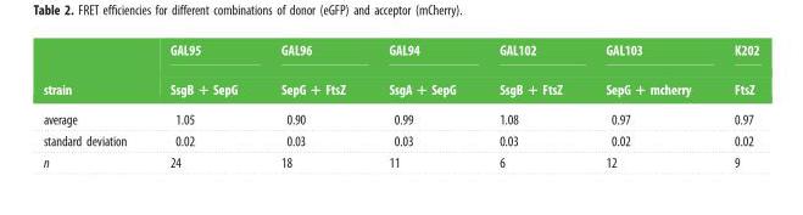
<table><thead><tr><td rowspan="2">strain</td><td rowspan="2">GAL95 SsgB + SepG</td><td rowspan="2">GAL96 SepG + FtsZ</td><td rowspan="2">GAL94 SsgA + SepG</td><td rowspan="2">GAL102 SsgB + FtsZ</td><td rowspan="2">GAL103 SepG + mcherry</td><td rowspan="2">K202 FtsZ</td></tr><tr></tr></thead><tbody><tr><td>average</td><td>1.05</td><td>0.90</td><td>0.99</td><td>1.08</td><td>0.97</td><td>0.97</td></tr><tr><td>standard deviation</td><td>0.02</td><td>0.03</td><td>0.03</td><td>0.03</td><td>0.02</td><td>0.02</td></tr><tr><td>n</td><td>24</td><td>18</td><td>11</td><td>6</td><td>12</td><td>9</td></tr></tbody></table>